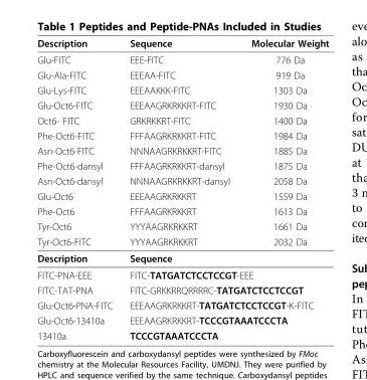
<table><thead><tr><td>Description</td><td>Sequence</td><td>Molecular Weight</td></tr></thead><tbody><tr><td>Glu-FITC</td><td>EEE-FITC</td><td>776 Da</td></tr><tr><td>Glu-Ala-FITC</td><td>EEEAA-FITC</td><td>919 Da</td></tr><tr><td>Glu-Lys-FITC</td><td>EEEAAKKK-FITC</td><td>1303 Da</td></tr><tr><td>Glu-Oct6-FITC</td><td>EEEAAGRKRKKRT-FITC</td><td>1930 Da</td></tr><tr><td>Oct6- FITC</td><td>GRKRKKRT-FITC</td><td>1400 Da</td></tr><tr><td>Phe-Oct6-FITC</td><td>FFFAAGRKRKKRT-FITC</td><td>1984 Da</td></tr><tr><td>Asn-Oct6-FITC</td><td>NNNAAGRKRKKRT-FITC</td><td>1885 Da</td></tr><tr><td>Phe-Oct6-dansyl</td><td>FFFAAGRKRKKRT-dansyl</td><td>1875 Da</td></tr><tr><td>Asn-Oct6-dansyl</td><td>NNNAAGRKRKKRT-dansyl</td><td>2058 Da</td></tr><tr><td>Glu-Oct6</td><td>EEEAAGRKRKKRT</td><td>1559 Da</td></tr><tr><td>Phe-Oct6</td><td>FFFAAGRKRKKRT</td><td>1613 Da</td></tr><tr><td>Tyr-Oct6</td><td>YYYAAGRKRKKRT</td><td>1661 Da</td></tr><tr><td>Tyr-Oct6-FITC</td><td>YYYAAGRKRKKRT</td><td>2032 Da</td></tr><tr><td>Description</td><td colspan="2">Sequence</td></tr><tr><td>FITC-PNA-EEE</td><td colspan="2">FITC-TATGATCTCCTCCGT-EEE</td></tr><tr><td>FITC-TAT-PNA</td><td colspan="2">FITC-GRKKRRQRRRRC-TATGATCTCCTCCGT</td></tr><tr><td>Glu-Oct6-PNA-FITC</td><td colspan="2">EEEAAGRKRKKRT-TATGATCTCCTCCGT-K-FITC</td></tr><tr><td>Glu-Oct6-13410a</td><td colspan="2">EEEAAGRKRKKRT-TCCCGTAAATCCCTA</td></tr><tr><td>13410a</td><td colspan="2">TCCCGTAAATCCCTA</td></tr></tbody></table>